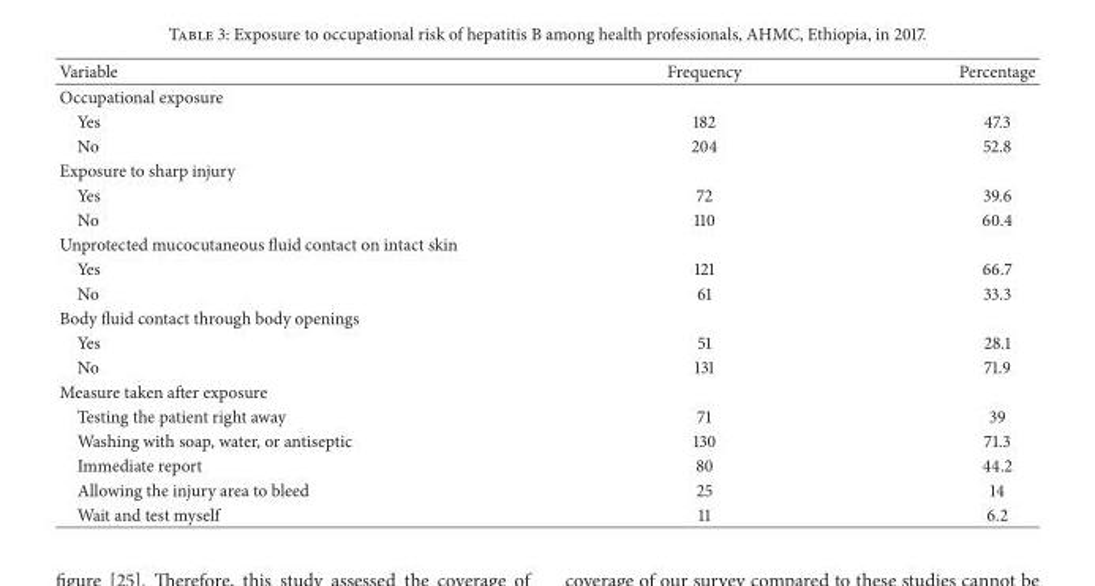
<table><thead><tr><td>Variable</td><td>Frequency</td><td>Percentage</td></tr></thead><tbody><tr><td colspan="3">Occupational exposure</td></tr><tr><td>Yes</td><td>182</td><td>47.3</td></tr><tr><td>No</td><td>204</td><td>52.8</td></tr><tr><td colspan="3">Exposure to sharp injury</td></tr><tr><td>Yes</td><td>72</td><td>39.6</td></tr><tr><td>No</td><td>110</td><td>60.4</td></tr><tr><td colspan="3">Unprotected mucocutaneous fluid contact on intact skin</td></tr><tr><td>Yes</td><td>121</td><td>66.7</td></tr><tr><td>No</td><td>61</td><td>33.3</td></tr><tr><td colspan="3">Body fluid contact through body openings</td></tr><tr><td>Yes</td><td>51</td><td>28.1</td></tr><tr><td>No</td><td>131</td><td>71.9</td></tr><tr><td colspan="3">Measure taken after exposure</td></tr><tr><td>Testing the patient right away</td><td>71</td><td>39</td></tr><tr><td>Washing with soap, water, or antiseptic</td><td>130</td><td>71.3</td></tr><tr><td>Immediate report</td><td>80</td><td>44.2</td></tr><tr><td>Allowing the injury area to bleed</td><td>25</td><td>14</td></tr><tr><td>Wait and test myself</td><td>11</td><td>6.2</td></tr></tbody></table>